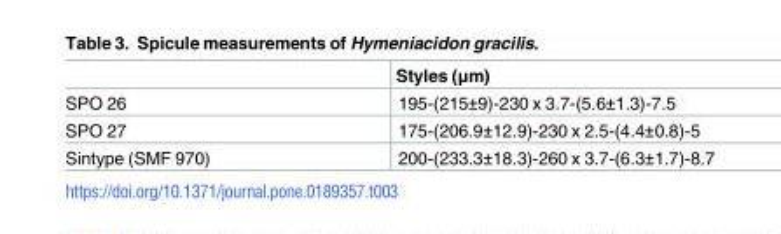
<table><thead><tr><td></td><td>Styles (μm)</td></tr></thead><tbody><tr><td>SPO 26</td><td>195-(215±9)-230 x 3.7-(5.6±1.3)-7.5</td></tr><tr><td>SPO 27</td><td>175-(206.9±12.9)-230 x 2.5-(4.4±0.8)-5</td></tr><tr><td>Sintype (SMF 970)</td><td>200-(233.3±18.3)-260 x 3.7-(6.3±1.7)-8.7</td></tr></tbody></table>